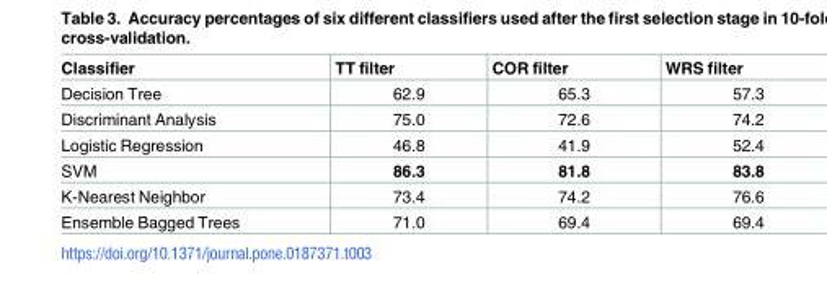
<table><thead><tr><td>Classifier</td><td>TT filter</td><td>COR filter</td><td>WRS filter</td></tr></thead><tbody><tr><td>Decision Tree</td><td>62.9</td><td>65.3</td><td>57.3</td></tr><tr><td>Discriminant Analysis</td><td>75.0</td><td>72.6</td><td>74.2</td></tr><tr><td>Logistic Regression</td><td>46.8</td><td>41.9</td><td>52.4</td></tr><tr><td>SVM</td><td>86.3</td><td>81.8</td><td>83.8</td></tr><tr><td>K-Nearest Neighbor</td><td>73.4</td><td>74.2</td><td>76.6</td></tr><tr><td>Ensemble Bagged Trees</td><td>71.0</td><td>69.4</td><td>69.4</td></tr></tbody></table>